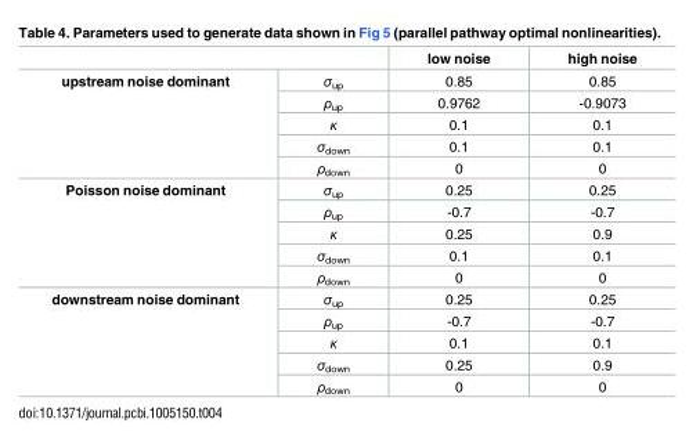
<table><thead><tr><td></td><td></td><td>low noise</td><td>high noise</td></tr></thead><tbody><tr><td rowspan="5">upstream noise dominant</td><td>σ<sub>up</sub></td><td>0.85</td><td>0.85</td></tr><tr><td>ρ<sub>up</sub></td><td>0.9762</td><td>-0.9073</td></tr><tr><td>κ</td><td>0.1</td><td>0.1</td></tr><tr><td>σ<sub>down</sub></td><td>0.1</td><td>0.1</td></tr><tr><td>ρ<sub>down</sub></td><td>0</td><td>0</td></tr><tr><td rowspan="5">Poisson noise dominant</td><td>σ<sub>up</sub></td><td>0.25</td><td>0.25</td></tr><tr><td>ρ<sub>up</sub></td><td>-0.7</td><td>-0.7</td></tr><tr><td>κ</td><td>0.25</td><td>0.9</td></tr><tr><td>σ<sub>down</sub></td><td>0.1</td><td>0.1</td></tr><tr><td>ρ<sub>down</sub></td><td>0</td><td>0</td></tr><tr><td rowspan="5">downstream noise dominant</td><td>σ<sub>up</sub></td><td>0.25</td><td>0.25</td></tr><tr><td>ρ<sub>up</sub></td><td>-0.7</td><td>-0.7</td></tr><tr><td>κ</td><td>0.1</td><td>0.1</td></tr><tr><td>σ<sub>down</sub></td><td>0.25</td><td>0.9</td></tr><tr><td>ρ<sub>down</sub></td><td>0</td><td>0</td></tr></tbody></table>